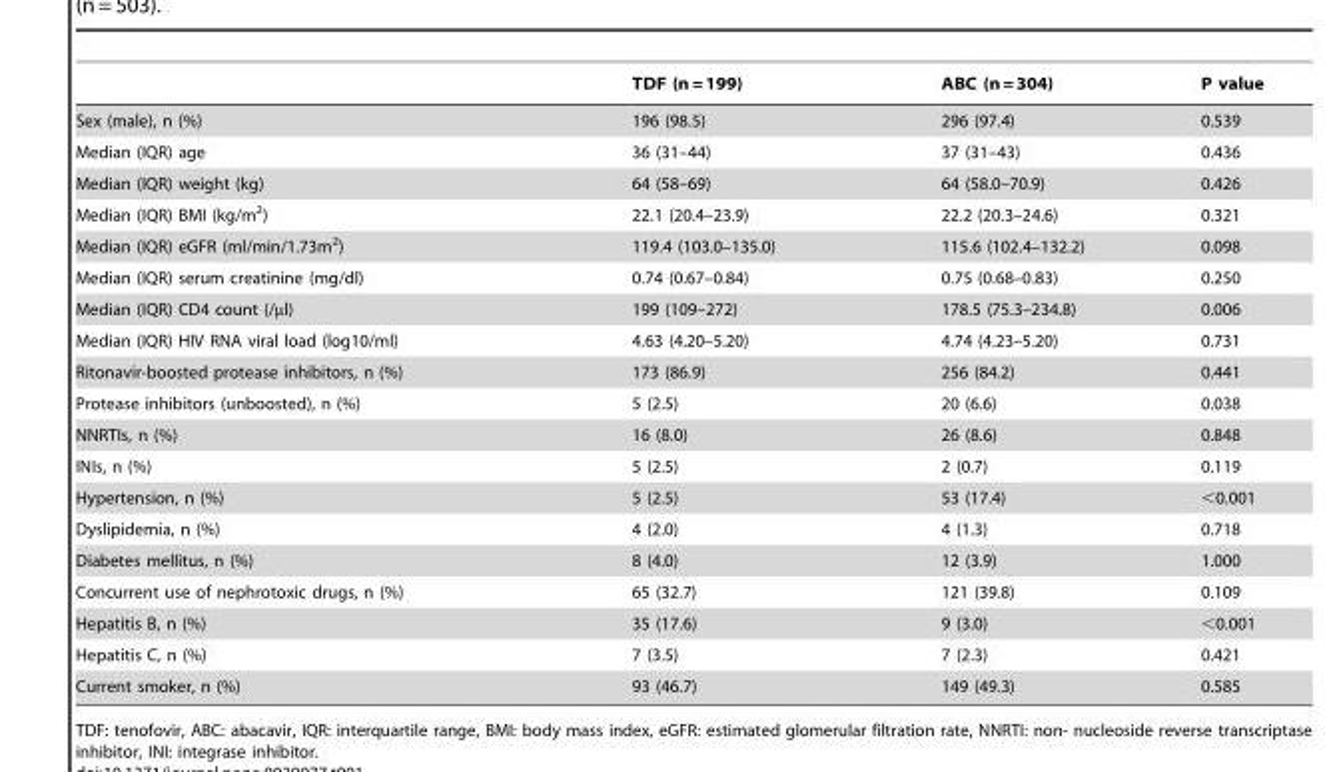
<table><thead><tr><td></td><td>TDF (n = 199)</td><td>ABC (n = 304)</td><td>P value</td></tr></thead><tbody><tr><td>Sex (male), n (%)</td><td>196 (98.5)</td><td>296 (97.4)</td><td>0.539</td></tr><tr><td>Median (IQR) age</td><td>36 (31–44)</td><td>37 (31–43)</td><td>0.436</td></tr><tr><td>Median (IQR) weight (kg)</td><td>64 (58–69)</td><td>64 (58.0–70.9)</td><td>0.426</td></tr><tr><td>Median (IQR) BMI (kg/m<sup>2</sup>)</td><td>22.1 (20.4–23.9)</td><td>22.2 (20.3–24.6)</td><td>0.321</td></tr><tr><td>Median (IQR) eGFR (ml/min/1.73m<sup>2</sup>)</td><td>119.4 (103.0–135.0)</td><td>115.6 (102.4–132.2)</td><td>0.098</td></tr><tr><td>Median (IQR) serum creatinine (mg/dl)</td><td>0.74 (0.67–0.84)</td><td>0.75 (0.68–0.83)</td><td>0.250</td></tr><tr><td>Median (IQR) CD4 count (/µl)</td><td>199 (109–272)</td><td>178.5 (75.3–234.8)</td><td>0.006</td></tr><tr><td>Median (IQR) HIV RNA viral load (log10/ml)</td><td>4.63 (4.20–5.20)</td><td>4.74 (4.23–5.20)</td><td>0.731</td></tr><tr><td>Ritonavir-boosted protease inhibitors, n (%)</td><td>173 (86.9)</td><td>256 (84.2)</td><td>0.441</td></tr><tr><td>Protease inhibitors (unboosted), n (%)</td><td>5 (2.5)</td><td>20 (6.6)</td><td>0.038</td></tr><tr><td>NNRTIs, n (%)</td><td>16 (8.0)</td><td>26 (8.6)</td><td>0.848</td></tr><tr><td>INIs, n (%)</td><td>5 (2.5)</td><td>2 (0.7)</td><td>0.119</td></tr><tr><td>Hypertension, n (%)</td><td>5 (2.5)</td><td>53 (17.4)</td><td>&lt;0.001</td></tr><tr><td>Dyslipidemia, n (%)</td><td>4 (2.0)</td><td>4 (1.3)</td><td>0.718</td></tr><tr><td>Diabetes mellitus, n (%)</td><td>8 (4.0)</td><td>12 (3.9)</td><td>1.000</td></tr><tr><td>Concurrent use of nephrotoxic drugs, n (%)</td><td>65 (32.7)</td><td>121 (39.8)</td><td>0.109</td></tr><tr><td>Hepatitis B, n (%)</td><td>35 (17.6)</td><td>9 (3.0)</td><td>&lt;0.001</td></tr><tr><td>Hepatitis C, n (%)</td><td>7 (3.5)</td><td>7 (2.3)</td><td>0.421</td></tr><tr><td>Current smoker, n (%)</td><td>93 (46.7)</td><td>149 (49.3)</td><td>0.585</td></tr></tbody></table>